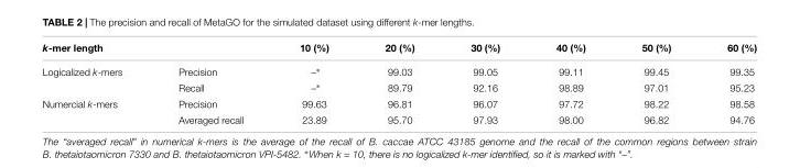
<table><thead><tr><td colspan="2">k-mer length</td><td rowspan="2">10 (%) –∗</td><td rowspan="2">20 (%) 99.03</td><td rowspan="2">30 (%) 99.05</td><td rowspan="2">40 (%) 99.11</td><td rowspan="2">50 (%) 99.45</td><td rowspan="2">60 (%) 99.35</td></tr><tr><td>Logicalized k-mers</td><td>Precision</td></tr></thead><tbody><tr><td></td><td>Recall</td><td>–∗</td><td>89.79</td><td>92.16</td><td>98.89</td><td>97.01</td><td>95.23</td></tr><tr><td rowspan="2">Numercial k-mers</td><td>Precision</td><td>99.63</td><td>96.81</td><td>96.07</td><td>97.72</td><td>98.22</td><td>98.58</td></tr><tr><td>Averaged recall</td><td>23.89</td><td>95.70</td><td>97.93</td><td>98.00</td><td>96.82</td><td>94.76</td></tr></tbody></table>